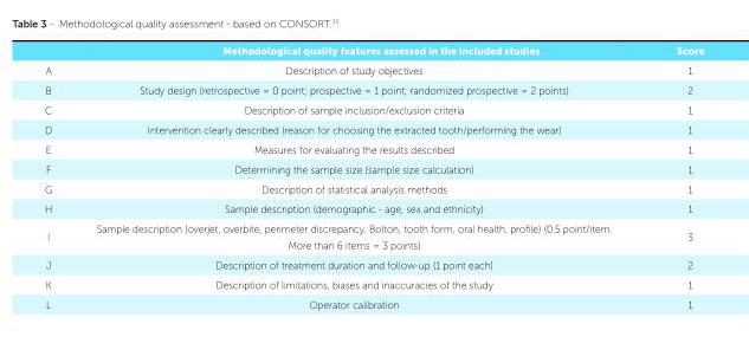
<table><thead><tr><td></td><td>Methodological quality features assessed in the included studies</td><td>Score</td></tr></thead><tbody><tr><td>A</td><td>Description of study objectives</td><td>1</td></tr><tr><td>B</td><td>Study design (retrospective = 0 point; prospective = 1 point; randomized prospective = 2 points)</td><td>2</td></tr><tr><td>C</td><td>Description of sample inclusion/exclusion criteria</td><td>1</td></tr><tr><td>D</td><td>Intervention clearly described (reason for choosing the extracted tooth/performing the wear)</td><td>1</td></tr><tr><td>E</td><td>Measures for evaluating the results described</td><td>1</td></tr><tr><td>F</td><td>Determining the sample size (sample size calculation)</td><td>1</td></tr><tr><td>G</td><td>Description of statistical analysis methods</td><td>1</td></tr><tr><td>H</td><td>Sample description (demographic - age, sex and ethnicity)</td><td>1</td></tr><tr><td>I</td><td>Sample description (overjet, overbite, perimeter discrepancy, Bolton, tooth form, oral health, profile) (0.5 point/item. More than 6 items = 3 points)</td><td>3</td></tr><tr><td>J</td><td>Description of treatment duration and follow-up (1 point each)</td><td>2</td></tr><tr><td>K</td><td>Description of limitations, biases and inaccuracies of the study</td><td>1</td></tr><tr><td>L</td><td>Operator calibration</td><td>1</td></tr></tbody></table>